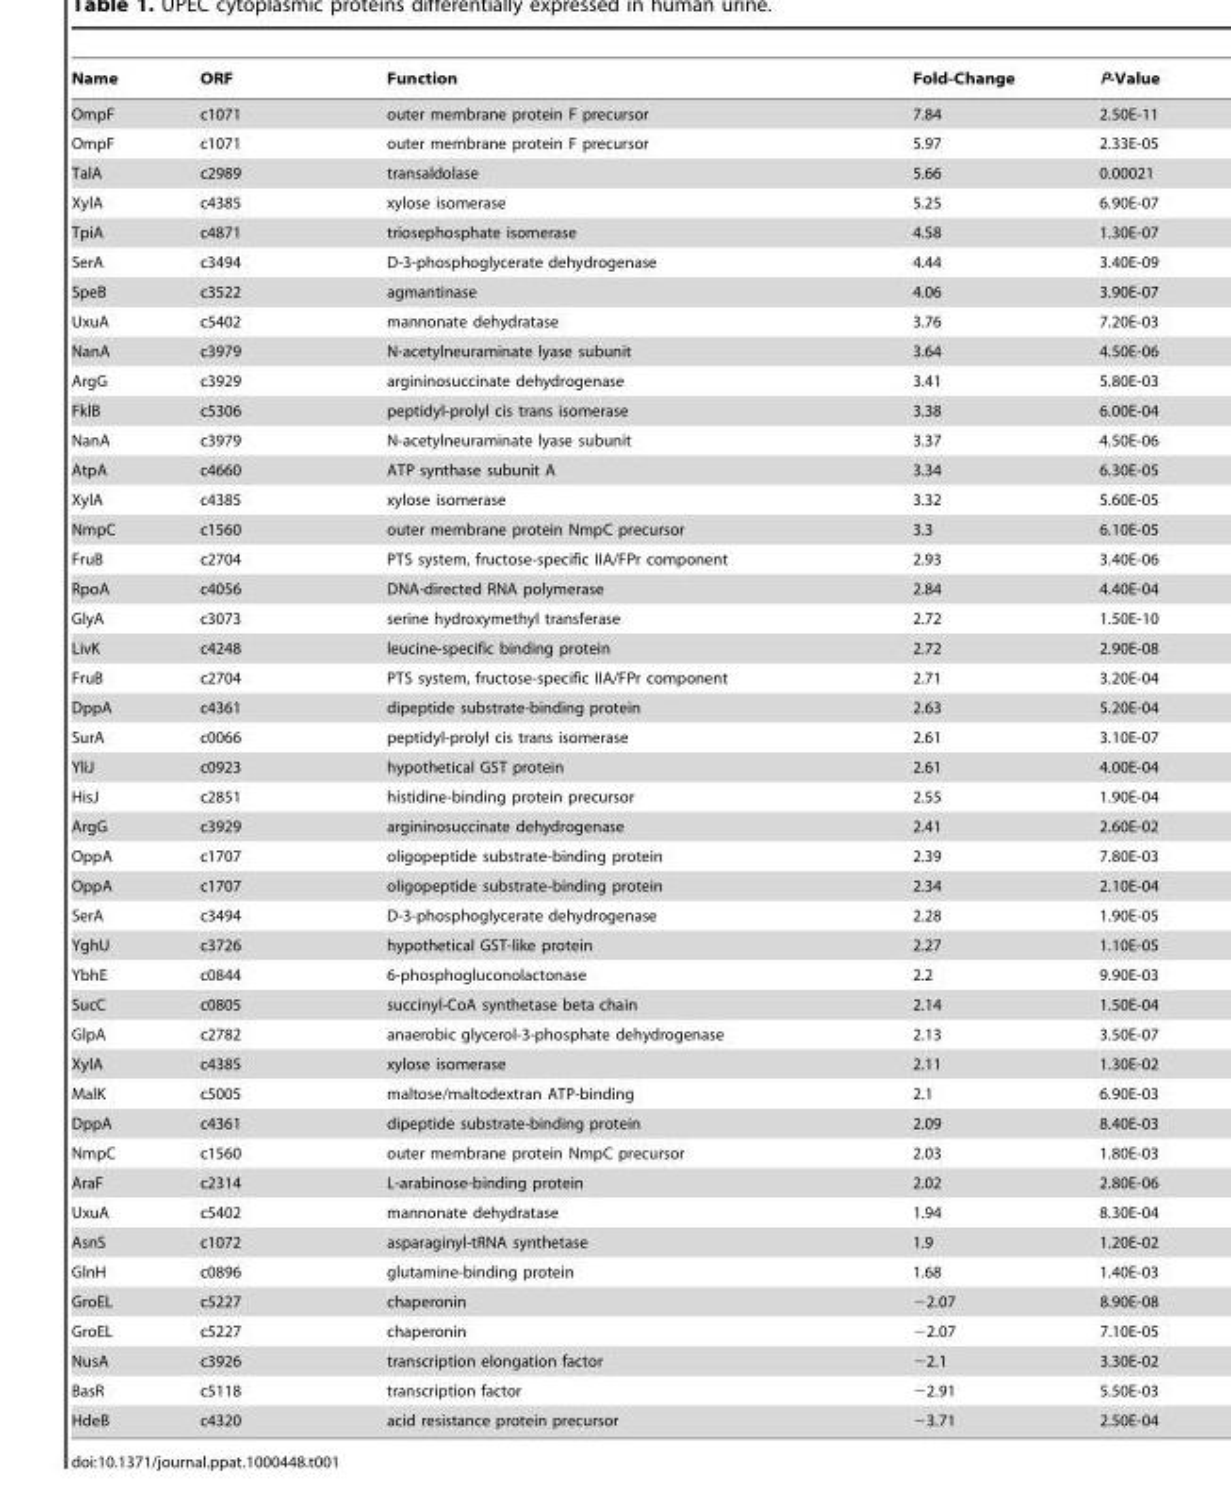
<table><thead><tr><td>Name</td><td>ORF</td><td>Function</td><td>Fold-Change</td><td>P-Value</td></tr></thead><tbody><tr><td>OmpF</td><td>c1071</td><td>outer membrane protein F precursor</td><td>7.84</td><td>2.50E-11</td></tr><tr><td>OmpF</td><td>c1071</td><td>outer membrane protein F precursor</td><td>5.97</td><td>2.33E-05</td></tr><tr><td>TalA</td><td>c2989</td><td>transaldolase</td><td>5.66</td><td>0.00021</td></tr><tr><td>XylA</td><td>c4385</td><td>xylose isomerase</td><td>5.25</td><td>6.90E-07</td></tr><tr><td>TpiA</td><td>c4871</td><td>triosephosphate isomerase</td><td>4.58</td><td>1.30E-07</td></tr><tr><td>SerA</td><td>c3494</td><td>D-3-phosphoglycerate dehydrogenase</td><td>4.44</td><td>3.40E-09</td></tr><tr><td>SpeB</td><td>c3522</td><td>agmantinase</td><td>4.06</td><td>3.90E-07</td></tr><tr><td>UxuA</td><td>c5402</td><td>mannonate dehydratase</td><td>3.76</td><td>7.20E-03</td></tr><tr><td>NanA</td><td>c3979</td><td>N-acetylneuraminate lyase subunit</td><td>3.64</td><td>4.50E-06</td></tr><tr><td>ArgG</td><td>c3929</td><td>argininosuccinate dehydrogenase</td><td>3.41</td><td>5.80E-03</td></tr><tr><td>FklB</td><td>c5306</td><td>peptidyl-prolyl cis trans isomerase</td><td>3.38</td><td>6.00E-04</td></tr><tr><td>NanA</td><td>c3979</td><td>N-acetylneuraminate lyase subunit</td><td>3.37</td><td>4.50E-06</td></tr><tr><td>AtpA</td><td>c4660</td><td>ATP synthase subunit A</td><td>3.34</td><td>6.30E-05</td></tr><tr><td>XylA</td><td>c4385</td><td>xylose isomerase</td><td>3.32</td><td>5.60E-05</td></tr><tr><td>NmpC</td><td>c1560</td><td>outer membrane protein NmpC precursor</td><td>3.3</td><td>6.10E-05</td></tr><tr><td>FruB</td><td>c2704</td><td>PTS system, fructose-specific IIA/FPr component</td><td>2.93</td><td>3.40E-06</td></tr><tr><td>RpoA</td><td>c4056</td><td>DNA-directed RNA polymerase</td><td>2.84</td><td>4.40E-04</td></tr><tr><td>GlyA</td><td>c3073</td><td>serine hydroxymethyl transferase</td><td>2.72</td><td>1.50E-10</td></tr><tr><td>LivK</td><td>c4248</td><td>leucine-specific binding protein</td><td>2.72</td><td>2.90E-08</td></tr><tr><td>FruB</td><td>c2704</td><td>PTS system, fructose-specific IIA/FPr component</td><td>2.71</td><td>3.20E-04</td></tr><tr><td>DppA</td><td>c4361</td><td>dipeptide substrate-binding protein</td><td>2.63</td><td>5.20E-04</td></tr><tr><td>SurA</td><td>c0066</td><td>peptidyl-prolyl cis trans isomerase</td><td>2.61</td><td>3.10E-07</td></tr><tr><td>YliJ</td><td>c0923</td><td>hypothetical GST protein</td><td>2.61</td><td>4.00E-04</td></tr><tr><td>HisJ</td><td>c2851</td><td>histidine-binding protein precursor</td><td>2.55</td><td>1.90E-04</td></tr><tr><td>ArgG</td><td>c3929</td><td>argininosuccinate dehydrogenase</td><td>2.41</td><td>2.60E-02</td></tr><tr><td>OppA</td><td>c1707</td><td>oligopeptide substrate-binding protein</td><td>2.39</td><td>7.80E-03</td></tr><tr><td>OppA</td><td>c1707</td><td>oligopeptide substrate-binding protein</td><td>2.34</td><td>2.10E-04</td></tr><tr><td>SerA</td><td>c3494</td><td>D-3-phosphoglycerate dehydrogenase</td><td>2.28</td><td>1.90E-05</td></tr><tr><td>YghU</td><td>c3726</td><td>hypothetical GST-like protein</td><td>2.27</td><td>1.10E-05</td></tr><tr><td>YbhE</td><td>c0844</td><td>6-phosphogluconolactonase</td><td>2.2</td><td>9.90E-03</td></tr><tr><td>SucC</td><td>c0805</td><td>succinyl-CoA synthetase beta chain</td><td>2.14</td><td>1.50E-04</td></tr><tr><td>GlpA</td><td>c2782</td><td>anaerobic glycerol-3-phosphate dehydrogenase</td><td>2.13</td><td>3.50E-07</td></tr><tr><td>XylA</td><td>c4385</td><td>xylose isomerase</td><td>2.11</td><td>1.30E-02</td></tr><tr><td>MalK</td><td>c5005</td><td>maltose/maltodextran ATP-binding</td><td>2.1</td><td>6.90E-03</td></tr><tr><td>DppA</td><td>c4361</td><td>dipeptide substrate-binding protein</td><td>2.09</td><td>8.40E-03</td></tr><tr><td>NmpC</td><td>c1560</td><td>outer membrane protein NmpC precursor</td><td>2.03</td><td>1.80E-03</td></tr><tr><td>AraF</td><td>c2314</td><td>L-arabinose-binding protein</td><td>2.02</td><td>2.80E-06</td></tr><tr><td>UxuA</td><td>c5402</td><td>mannonate dehydratase</td><td>1.94</td><td>8.30E-04</td></tr><tr><td>AsnS</td><td>c1072</td><td>asparaginyl-tRNA synthetase</td><td>1.9</td><td>1.20E-02</td></tr><tr><td>GlnH</td><td>c0896</td><td>glutamine-binding protein</td><td>1.68</td><td>1.40E-03</td></tr><tr><td>GroEL</td><td>c5227</td><td>chaperonin</td><td>−2.07</td><td>8.90E-08</td></tr><tr><td>GroEL</td><td>c5227</td><td>chaperonin</td><td>−2.07</td><td>7.10E-05</td></tr><tr><td>NusA</td><td>c3926</td><td>transcription elongation factor</td><td>−2.1</td><td>3.30E-02</td></tr><tr><td>BasR</td><td>c5118</td><td>transcription factor</td><td>−2.91</td><td>5.50E-03</td></tr><tr><td>HdeB</td><td>c4320</td><td>acid resistance protein precursor</td><td>−3.71</td><td>2.50E-04</td></tr></tbody></table>